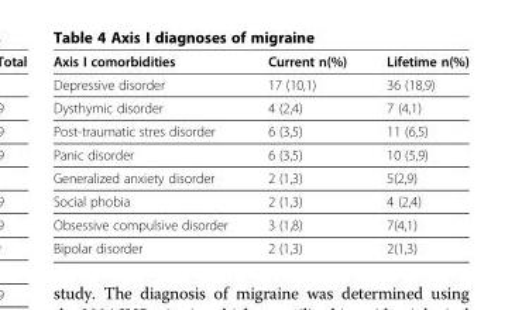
<table><thead><tr><td>Axis I comorbidities</td><td>Current n(%)</td><td>Lifetime n(%)</td></tr></thead><tbody><tr><td>Depressive disorder</td><td>17 (10,1)</td><td>36 (18,9)</td></tr><tr><td>Dysthymic disorder</td><td>4 (2,4)</td><td>7 (4,1)</td></tr><tr><td>Post-traumatic stres disorder</td><td>6 (3,5)</td><td>11 (6,5)</td></tr><tr><td>Panic disorder</td><td>6 (3,5)</td><td>10 (5,9)</td></tr><tr><td>Generalized anxiety disorder</td><td>2 (1,3)</td><td>5(2,9)</td></tr><tr><td>Social phobia</td><td>2 (1,3)</td><td>4 (2,4)</td></tr><tr><td>Obsessive compulsive disorder</td><td>3 (1,8)</td><td>7(4,1)</td></tr><tr><td>Bipolar disorder</td><td>2 (1,3)</td><td>2(1,3)</td></tr></tbody></table>